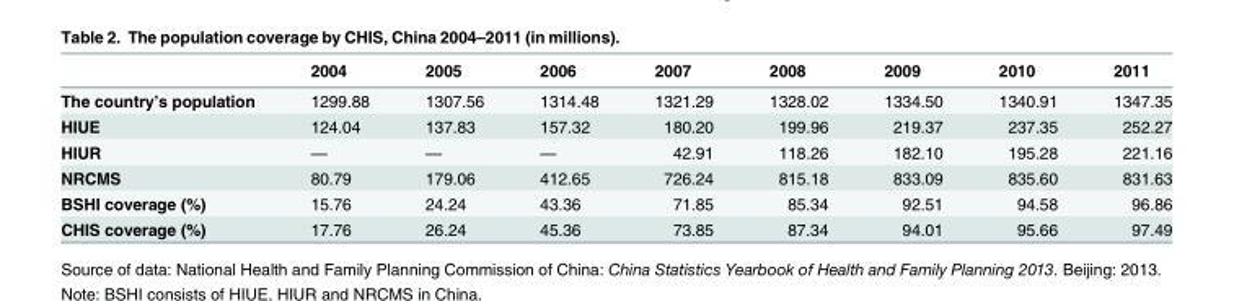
<table><thead><tr><td></td><td>2004</td><td>2005</td><td>2006</td><td>2007</td><td>2008</td><td>2009</td><td>2010</td><td>2011</td></tr></thead><tbody><tr><td>The country’s population</td><td>1299.88</td><td>1307.56</td><td>1314.48</td><td>1321.29</td><td>1328.02</td><td>1334.50</td><td>1340.91</td><td>1347.35</td></tr><tr><td>HIUE</td><td>124.04</td><td>137.83</td><td>157.32</td><td>180.20</td><td>199.96</td><td>219.37</td><td>237.35</td><td>252.27</td></tr><tr><td>HIUR</td><td>—</td><td>—</td><td>—</td><td>42.91</td><td>118.26</td><td>182.10</td><td>195.28</td><td>221.16</td></tr><tr><td>NRCMS</td><td>80.79</td><td>179.06</td><td>412.65</td><td>726.24</td><td>815.18</td><td>833.09</td><td>835.60</td><td>831.63</td></tr><tr><td>BSHI coverage (%)</td><td>15.76</td><td>24.24</td><td>43.36</td><td>71.85</td><td>85.34</td><td>92.51</td><td>94.58</td><td>96.86</td></tr><tr><td>CHIS coverage (%)</td><td>17.76</td><td>26.24</td><td>45.36</td><td>73.85</td><td>87.34</td><td>94.01</td><td>95.66</td><td>97.49</td></tr></tbody></table>